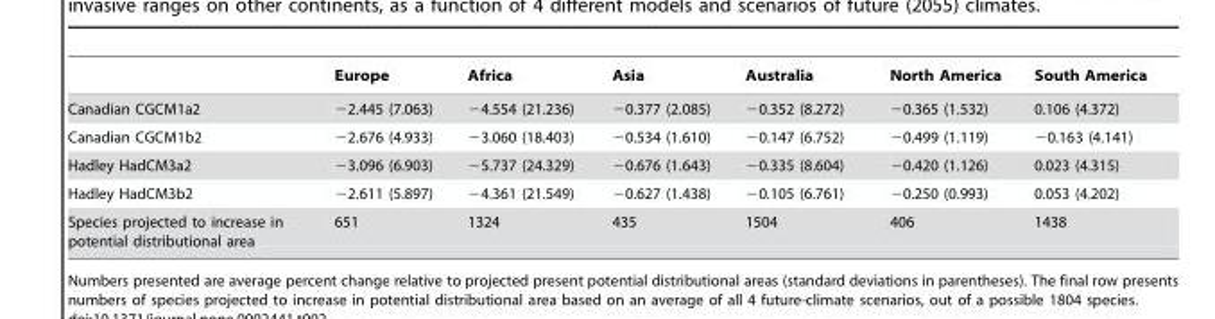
<table><thead><tr><td></td><td>Europe</td><td>Africa</td><td>Asia</td><td>Australia</td><td>North America</td><td>South America</td></tr></thead><tbody><tr><td>Canadian CGCM1a2</td><td>−2.445 (7.063)</td><td>−4.554 (21.236)</td><td>−0.377 (2.085)</td><td>−0.352 (8.272)</td><td>−0.365 (1.532)</td><td>0.106 (4.372)</td></tr><tr><td>Canadian CGCM1b2</td><td>−2.676 (4.933)</td><td>−3.060 (18.403)</td><td>−0.534 (1.610)</td><td>−0.147 (6.752)</td><td>−0.499 (1.119)</td><td>−0.163 (4.141)</td></tr><tr><td>Hadley HadCM3a2</td><td>−3.096 (6.903)</td><td>−5.737 (24.329)</td><td>−0.676 (1.643)</td><td>−0.335 (8.604)</td><td>−0.420 (1.126)</td><td>0.023 (4.315)</td></tr><tr><td>Hadley HadCM3b2</td><td>−2.611 (5.897)</td><td>−4.361 (21.549)</td><td>−0.627 (1.438)</td><td>−0.105 (6.761)</td><td>−0.250 (0.993)</td><td>0.053 (4.202)</td></tr><tr><td>Species projected to increase in potential distributional area</td><td>651</td><td>1324</td><td>435</td><td>1504</td><td>406</td><td>1438</td></tr></tbody></table>